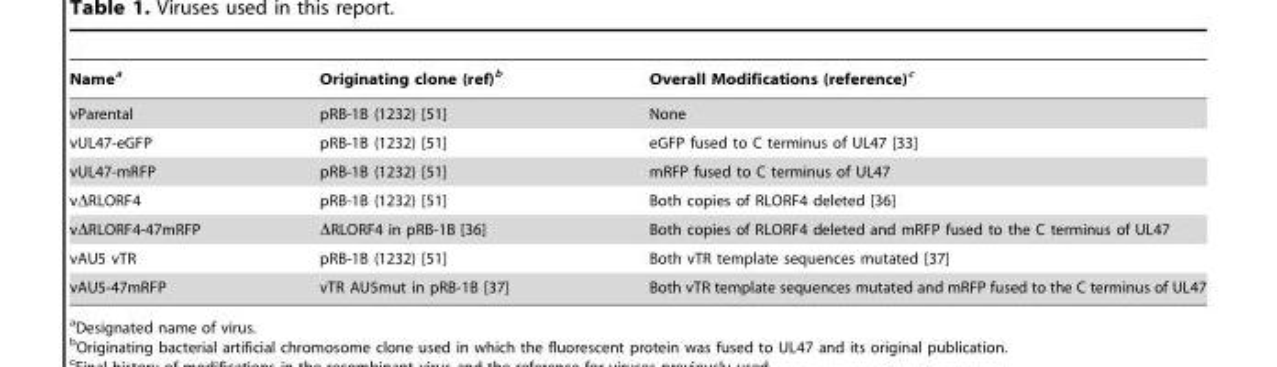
<table><thead><tr><td>Name<sup>a</sup></td><td>Originating clone (ref)<sup>b</sup></td><td>Overall Modifications (reference)<sup>c</sup></td></tr></thead><tbody><tr><td>vParental</td><td>pRB-1B (1232) [51]</td><td>None</td></tr><tr><td>vUL47-eGFP</td><td>pRB-1B (1232) [51]</td><td>eGFP fused to C terminus of UL47 [33]</td></tr><tr><td>vUL47-mRFP</td><td>pRB-1B (1232) [51]</td><td>mRFP fused to C terminus of UL47</td></tr><tr><td>vΔRLORF4</td><td>pRB-1B (1232) [51]</td><td>Both copies of RLORF4 deleted [36]</td></tr><tr><td>vΔRLORF4-47mRFP</td><td>ΔRLORF4 in pRB-1B [36]</td><td>Both copies of RLORF4 deleted and mRFP fused to the C terminus of UL47</td></tr><tr><td>vAU5 vTR</td><td>pRB-1B (1232) [51]</td><td>Both vTR template sequences mutated [37]</td></tr><tr><td>vAU5-47mRFP</td><td>vTR AU5mut in pRB-1B [37]</td><td>Both vTR template sequences mutated and mRFP fused to the C terminus of UL47</td></tr></tbody></table>